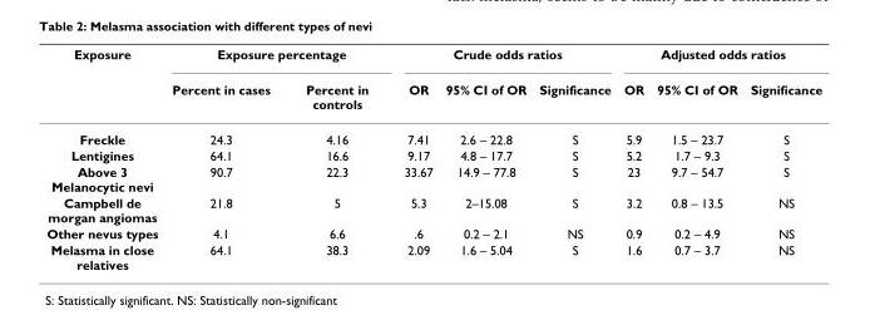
<table><thead><tr><td rowspan="2">Exposure</td><td colspan="2">Exposure percentage</td><td colspan="3">Crude odds ratios</td><td colspan="3">Adjusted odds ratios</td></tr><tr><td>Percent in cases</td><td>Percent in controls</td><td>OR</td><td>95% CI of OR</td><td>Significance</td><td>OR</td><td>95% CI of OR</td><td>Significance</td></tr></thead><tbody><tr><td>Freckle</td><td>24.3</td><td>4.16</td><td>7.41</td><td>2.6 – 22.8</td><td>S</td><td>5.9</td><td>1.5 – 23.7</td><td>S</td></tr><tr><td>Lentigines</td><td>64.1</td><td>16.6</td><td>9.17</td><td>4.8 – 17.7</td><td>S</td><td>5.2</td><td>1.7 – 9.3</td><td>S</td></tr><tr><td>Above 3 Melanocytic nevi</td><td>90.7</td><td>22.3</td><td>33.67</td><td>14.9 – 77.8</td><td>S</td><td>23</td><td>9.7 – 54.7</td><td>S</td></tr><tr><td>Campbell de morgan angiomas</td><td>21.8</td><td>5</td><td>5.3</td><td>2–15.08</td><td>S</td><td>3.2</td><td>0.8 – 13.5</td><td>NS</td></tr><tr><td>Other nevus types</td><td>4.1</td><td>6.6</td><td>.6</td><td>0.2 – 2.1</td><td>NS</td><td>0.9</td><td>0.2 – 4.9</td><td>NS</td></tr><tr><td>Melasma in close relatives</td><td>64.1</td><td>38.3</td><td>2.09</td><td>1.6 – 5.04</td><td>S</td><td>1.6</td><td>0.7 – 3.7</td><td>NS</td></tr></tbody></table>